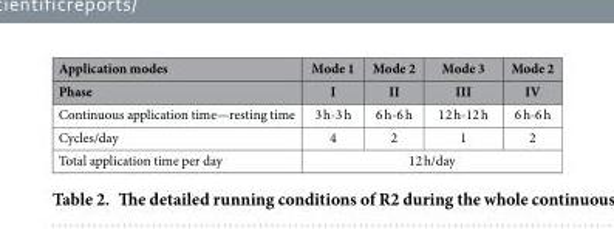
<table><thead><tr><td rowspan="2">Application modes Phase</td><td rowspan="2">Mode 1 I</td><td rowspan="2">Mode 2 II</td><td rowspan="2">Mode 3 III</td><td rowspan="2">Mode 2 IV</td></tr><tr></tr></thead><tbody><tr><td>Continuous application time—resting time</td><td>3 h-3 h</td><td>6 h-6 h</td><td>12 h-12 h</td><td>6 h-6 h</td></tr><tr><td>Cycles/day</td><td>4</td><td>2</td><td>1</td><td>2</td></tr><tr><td>Total application time per day</td><td colspan="4">12 h/day</td></tr></tbody></table>